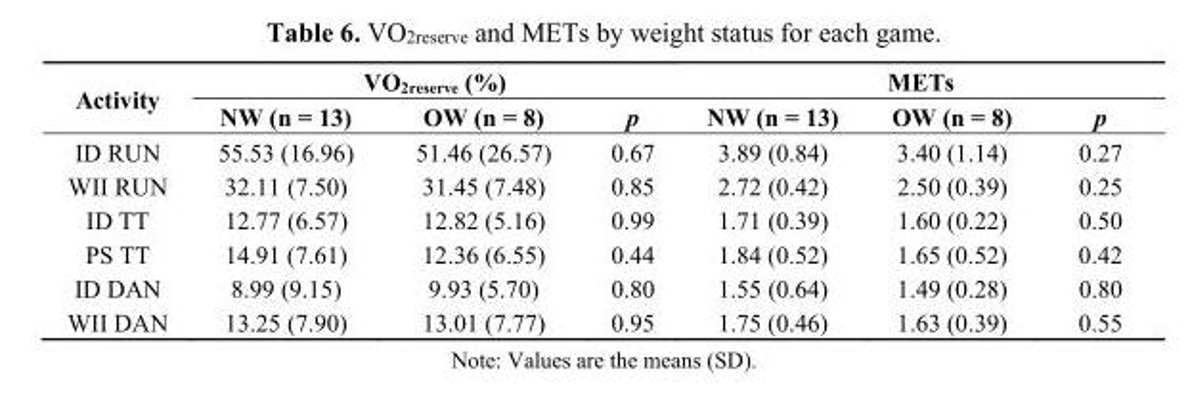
<table><thead><tr><td rowspan="2">Activity</td><td colspan="3">VO<sub>2reserve</sub> (%)</td><td colspan="3">METs</td></tr><tr><td>NW (n = 13)</td><td>OW (n = 8)</td><td>p</td><td>NW (n = 13)</td><td>OW (n = 8)</td><td>p</td></tr></thead><tbody><tr><td>ID RUN</td><td>55.53 (16.96)</td><td>51.46 (26.57)</td><td>0.67</td><td>3.89 (0.84)</td><td>3.40 (1.14)</td><td>0.27</td></tr><tr><td>WII RUN</td><td>32.11 (7.50)</td><td>31.45 (7.48)</td><td>0.85</td><td>2.72 (0.42)</td><td>2.50 (0.39)</td><td>0.25</td></tr><tr><td>ID TT</td><td>12.77 (6.57)</td><td>12.82 (5.16)</td><td>0.99</td><td>1.71 (0.39)</td><td>1.60 (0.22)</td><td>0.50</td></tr><tr><td>PS TT</td><td>14.91 (7.61)</td><td>12.36 (6.55)</td><td>0.44</td><td>1.84 (0.52)</td><td>1.65 (0.52)</td><td>0.42</td></tr><tr><td>ID DAN</td><td>8.99 (9.15)</td><td>9.93 (5.70)</td><td>0.80</td><td>1.55 (0.64)</td><td>1.49 (0.28)</td><td>0.80</td></tr><tr><td>WII DAN</td><td>13.25 (7.90)</td><td>13.01 (7.77)</td><td>0.95</td><td>1.75 (0.46)</td><td>1.63 (0.39)</td><td>0.55</td></tr></tbody></table>